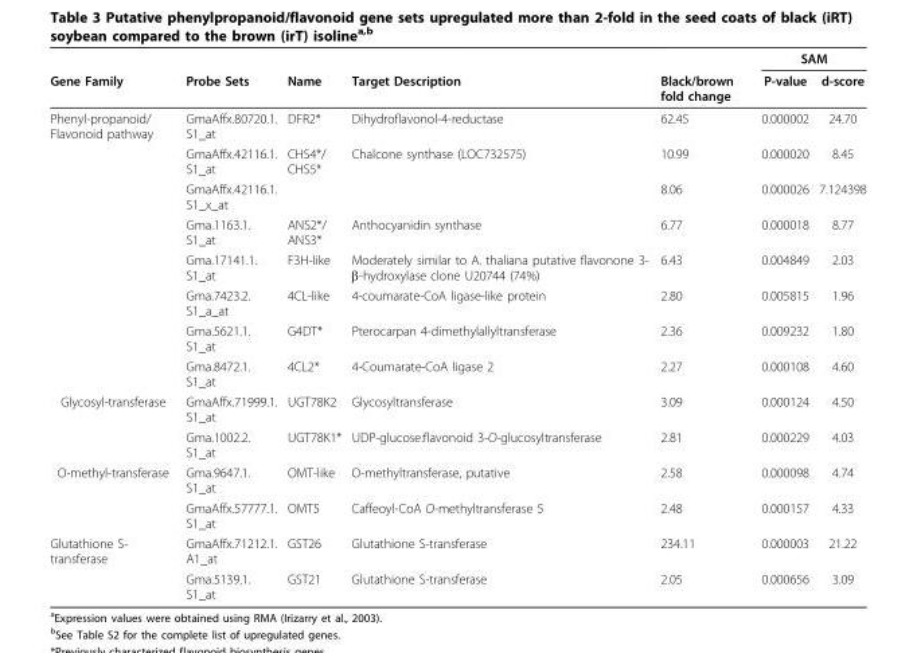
<table><thead><tr><td rowspan="2">Gene Family</td><td rowspan="2">Probe Sets</td><td rowspan="2">Name</td><td rowspan="2">Target Description</td><td rowspan="2">Black/brown fold change</td><td colspan="2">SAM</td></tr><tr><td>P-value</td><td>d-score</td></tr></thead><tbody><tr><td rowspan="8">Phenyl-propanoid/ Flavonoid pathway</td><td>GmaAffx.80720.1. S1_at</td><td>DFR2*</td><td>Dihydroflavonol-4-reductase</td><td>62.45</td><td>0.000002</td><td>24.70</td></tr><tr><td>GmaAffx.42116.1. S1_at</td><td>CHS4*/ CHS5*</td><td>Chalcone synthase (LOC732575)</td><td>10.99</td><td>0.000020</td><td>8.45</td></tr><tr><td>GmaAffx.42116.1. S1_x_at</td><td></td><td></td><td>8.06</td><td>0.000026</td><td>7.124398</td></tr><tr><td>Gma.1163.1. S1_at</td><td>ANS2*/ ANS3*</td><td>Anthocyanidin synthase</td><td>6.77</td><td>0.000018</td><td>8.77</td></tr><tr><td>Gma.17141.1. S1_at</td><td>F3H-like</td><td>Moderately similar to A. thaliana putative flavonone 3- β-hydroxylase clone U20744 (74%)</td><td>6.43</td><td>0.004849</td><td>2.03</td></tr><tr><td>Gma.7423.2. S1_a_at</td><td>4CL-like</td><td>4-coumarate-CoA ligase-like protein</td><td>2.80</td><td>0.005815</td><td>1.96</td></tr><tr><td>Gma.5621.1. S1_at</td><td>G4DT*</td><td>Pterocarpan 4-dimethylallyltransferase</td><td>2.36</td><td>0.009232</td><td>1.80</td></tr><tr><td>Gma.8472.1. S1_at</td><td>4CL2*</td><td>4-Coumarate-CoA ligase 2</td><td>2.27</td><td>0.000108</td><td>4.60</td></tr><tr><td rowspan="2">Glycosyl-transferase</td><td>GmaAffx.71999.1. S1_at</td><td>UGT78K2</td><td>Glycosyltransferase</td><td>3.09</td><td>0.000124</td><td>4.50</td></tr><tr><td>Gma.1002.2. S1_at</td><td>UGT78K1*</td><td>UDP-glucose:flavonoid 3-O-glucosyltransferase</td><td>2.81</td><td>0.000229</td><td>4.03</td></tr><tr><td rowspan="2">O-methyl-transferase</td><td>Gma.9647.1. S1_at</td><td>OMT-like</td><td>O-methyltransferase, putative</td><td>2.58</td><td>0.000098</td><td>4.74</td></tr><tr><td>GmaAffx.57777.1. S1_at</td><td>OMT5</td><td>Caffeoyl-CoA O-methyltransferase 5</td><td>2.48</td><td>0.000157</td><td>4.33</td></tr><tr><td rowspan="2">Glutathione S- transferase</td><td>GmaAffx.71212.1. A1_at</td><td>GST26</td><td>Glutathione S-transferase</td><td>234.11</td><td>0.000003</td><td>21.22</td></tr><tr><td>Gma.5139.1. S1_at</td><td>GST21</td><td>Glutathione S-transferase</td><td>2.05</td><td>0.000656</td><td>3.09</td></tr></tbody></table>